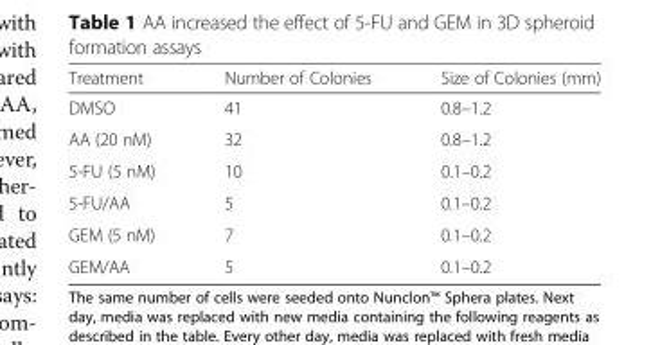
<table><thead><tr><td>Treatment</td><td>Number of Colonies</td><td>Size of Colonies (mm)</td></tr></thead><tbody><tr><td>DMSO</td><td>41</td><td>0.8–1.2</td></tr><tr><td>AA (20 nM)</td><td>32</td><td>0.8–1.2</td></tr><tr><td>5-FU (5 nM)</td><td>10</td><td>0.1–0.2</td></tr><tr><td>5-FU/AA</td><td>5</td><td>0.1–0.2</td></tr><tr><td>GEM (5 nM)</td><td>7</td><td>0.1–0.2</td></tr><tr><td>GEM/AA</td><td>5</td><td>0.1–0.2</td></tr></tbody></table>